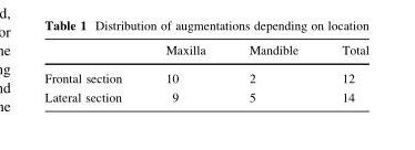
<table><thead><tr><td></td><td>Maxilla</td><td>Mandible</td><td>Total</td></tr></thead><tbody><tr><td>Frontal section</td><td>10</td><td>2</td><td>12</td></tr><tr><td>Lateral section</td><td>9</td><td>5</td><td>14</td></tr></tbody></table>